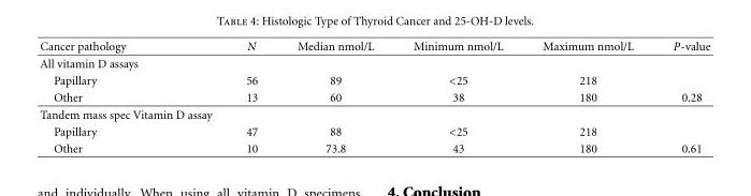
<table><thead><tr><td>Cancer pathology</td><td>N</td><td>Median nmol/L</td><td>Minimum nmol/L</td><td>Maximum nmol/L</td><td>P-value</td></tr></thead><tbody><tr><td colspan="6">All vitamin D assays</td></tr><tr><td>Papillary</td><td>56</td><td>89</td><td>&lt;25</td><td>218</td><td></td></tr><tr><td>Other</td><td>13</td><td>60</td><td>38</td><td>180</td><td>0.28</td></tr><tr><td colspan="6">Tandem mass spec Vitamin D assay</td></tr><tr><td>Papillary</td><td>47</td><td>88</td><td>&lt;25</td><td>218</td><td></td></tr><tr><td>Other</td><td>10</td><td>73.8</td><td>43</td><td>180</td><td>0.61</td></tr></tbody></table>